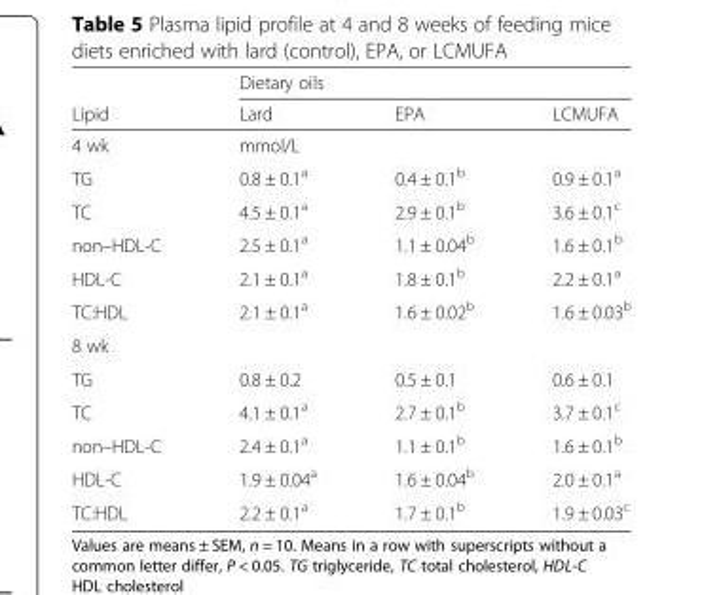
<table><thead><tr><td rowspan="2">Lipid</td><td colspan="3">Dietary oils</td></tr><tr><td>Lard</td><td>EPA</td><td>LCMUFA</td></tr></thead><tbody><tr><td>4 wk</td><td colspan="3">mmol/L</td></tr><tr><td>TG</td><td>0.8 ± 0.1<sup>a</sup></td><td>0.4 ± 0.1<sup>b</sup></td><td>0.9 ± 0.1<sup>a</sup></td></tr><tr><td>TC</td><td>4.5 ± 0.1<sup>a</sup></td><td>2.9 ± 0.1<sup>b</sup></td><td>3.6 ± 0.1<sup>c</sup></td></tr><tr><td>non–HDL-C</td><td>2.5 ± 0.1<sup>a</sup></td><td>1.1 ± 0.04<sup>b</sup></td><td>1.6 ± 0.1<sup>b</sup></td></tr><tr><td>HDL-C</td><td>2.1 ± 0.1<sup>a</sup></td><td>1.8 ± 0.1<sup>b</sup></td><td>2.2 ± 0.1<sup>a</sup></td></tr><tr><td>TC:HDL</td><td>2.1 ± 0.1<sup>a</sup></td><td>1.6 ± 0.02<sup>b</sup></td><td>1.6 ± 0.03<sup>b</sup></td></tr><tr><td colspan="4">8 wk</td></tr><tr><td>TG</td><td>0.8 ± 0.2</td><td>0.5 ± 0.1</td><td>0.6 ± 0.1</td></tr><tr><td>TC</td><td>4.1 ± 0.1<sup>a</sup></td><td>2.7 ± 0.1<sup>b</sup></td><td>3.7 ± 0.1<sup>c</sup></td></tr><tr><td>non–HDL-C</td><td>2.4 ± 0.1<sup>a</sup></td><td>1.1 ± 0.1<sup>b</sup></td><td>1.6 ± 0.1<sup>b</sup></td></tr><tr><td>HDL-C</td><td>1.9 ± 0.04<sup>a</sup></td><td>1.6 ± 0.04<sup>b</sup></td><td>2.0 ± 0.1<sup>a</sup></td></tr><tr><td>TC:HDL</td><td>2.2 ± 0.1<sup>a</sup></td><td>1.7 ± 0.1<sup>b</sup></td><td>1.9 ± 0.03<sup>c</sup></td></tr></tbody></table>